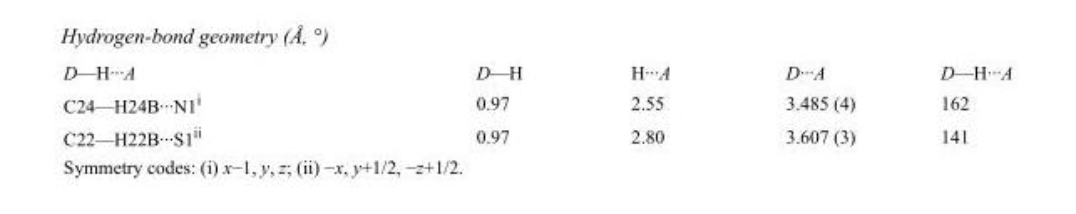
<table><tbody><tr><td>D—H···A</td><td>D—H</td><td>H···A</td><td>D···A</td><td>D—H···A</td></tr><tr><td>C24—H24B···N1<sup>i</sup></td><td>0.97</td><td>2.55</td><td>3.485 (4)</td><td>162</td></tr><tr><td>C22—H22B···S1<sup>ii</sup></td><td>0.97</td><td>2.80</td><td>3.607 (3)</td><td>141</td></tr></tbody></table>